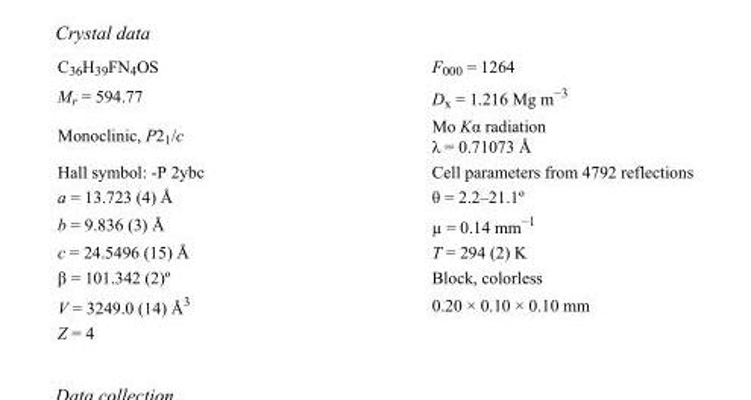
<table><tbody><tr><td>C<sub>36</sub>H<sub>39</sub>FN<sub>4</sub>OS</td><td>F<sub>000</sub> = 1264</td></tr><tr><td>M<sub>r</sub> = 594.77</td><td>D<sub>x</sub> = 1.216 Mg m<sup>−3</sup></td></tr><tr><td>Monoclinic, P2<sub>1</sub>/c</td><td>Mo Kα radiation λ = 0.71073 Å</td></tr><tr><td>Hall symbol: -P 2ybc</td><td>Cell parameters from 4792 reflections</td></tr><tr><td>a = 13.723 (4) Å</td><td>θ = 2.2–21.1º</td></tr><tr><td>b = 9.836 (3) Å</td><td>µ = 0.14 mm<sup>−1</sup></td></tr><tr><td>c = 24.5496 (15) Å</td><td>T = 294 (2) K</td></tr><tr><td>β = 101.342 (2)º</td><td>Block, colorless</td></tr><tr><td>V = 3249.0 (14) Å<sup>3</sup></td><td>0.20 × 0.10 × 0.10 mm</td></tr><tr><td>Z = 4</td><td></td></tr></tbody></table>